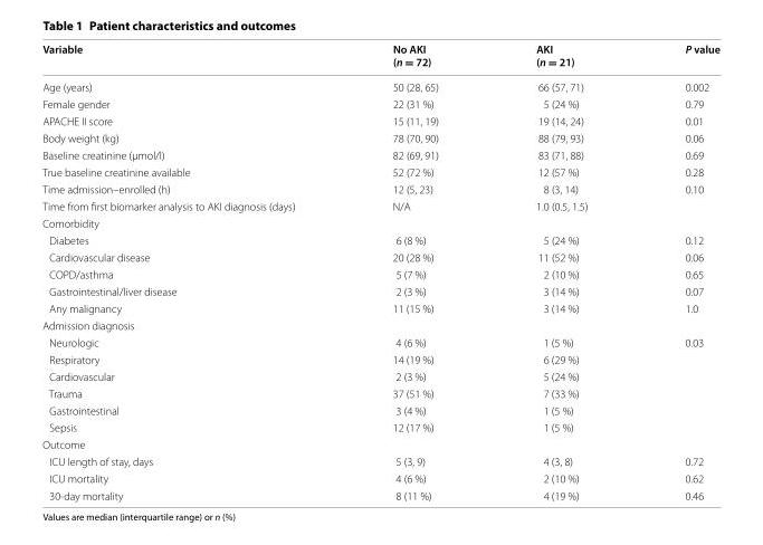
<table><thead><tr><td>Variable</td><td>No AKI (n = 72)</td><td>AKI (n = 21)</td><td>P value</td></tr></thead><tbody><tr><td>Age (years)</td><td>50 (28, 65)</td><td>66 (57, 71)</td><td>0.002</td></tr><tr><td>Female gender</td><td>22 (31 %)</td><td>5 (24 %)</td><td>0.79</td></tr><tr><td>APACHE II score</td><td>15 (11, 19)</td><td>19 (14, 24)</td><td>0.01</td></tr><tr><td>Body weight (kg)</td><td>78 (70, 90)</td><td>88 (79, 93)</td><td>0.06</td></tr><tr><td>Baseline creatinine (µmol/l)</td><td>82 (69, 91)</td><td>83 (71, 88)</td><td>0.69</td></tr><tr><td>True baseline creatinine available</td><td>52 (72 %)</td><td>12 (57 %)</td><td>0.28</td></tr><tr><td>Time admission–enrolled (h)</td><td>12 (5, 23)</td><td>8 (3, 14)</td><td>0.10</td></tr><tr><td>Time from first biomarker analysis to AKI diagnosis (days)</td><td>N/A</td><td>1.0 (0.5, 1.5)</td><td></td></tr><tr><td colspan="4">Comorbidity</td></tr><tr><td>Diabetes</td><td>6 (8 %)</td><td>5 (24 %)</td><td>0.12</td></tr><tr><td>Cardiovascular disease</td><td>20 (28 %)</td><td>11 (52 %)</td><td>0.06</td></tr><tr><td>COPD/asthma</td><td>5 (7 %)</td><td>2 (10 %)</td><td>0.65</td></tr><tr><td>Gastrointestinal/liver disease</td><td>2 (3 %)</td><td>3 (14 %)</td><td>0.07</td></tr><tr><td>Any malignancy</td><td>11 (15 %)</td><td>3 (14 %)</td><td>1.0</td></tr><tr><td colspan="4">Admission diagnosis</td></tr><tr><td>Neurologic</td><td>4 (6 %)</td><td>1 (5 %)</td><td>0.03</td></tr><tr><td>Respiratory</td><td>14 (19 %)</td><td>6 (29 %)</td><td></td></tr><tr><td>Cardiovascular</td><td>2 (3 %)</td><td>5 (24 %)</td><td></td></tr><tr><td>Trauma</td><td>37 (51 %)</td><td>7 (33 %)</td><td></td></tr><tr><td>Gastrointestinal</td><td>3 (4 %)</td><td>1 (5 %)</td><td></td></tr><tr><td>Sepsis</td><td>12 (17 %)</td><td>1 (5 %)</td><td></td></tr><tr><td colspan="4">Outcome</td></tr><tr><td>ICU length of stay, days</td><td>5 (3, 9)</td><td>4 (3, 8)</td><td>0.72</td></tr><tr><td>ICU mortality</td><td>4 (6 %)</td><td>2 (10 %)</td><td>0.62</td></tr><tr><td>30‑day mortality</td><td>8 (11 %)</td><td>4 (19 %)</td><td>0.46</td></tr></tbody></table>